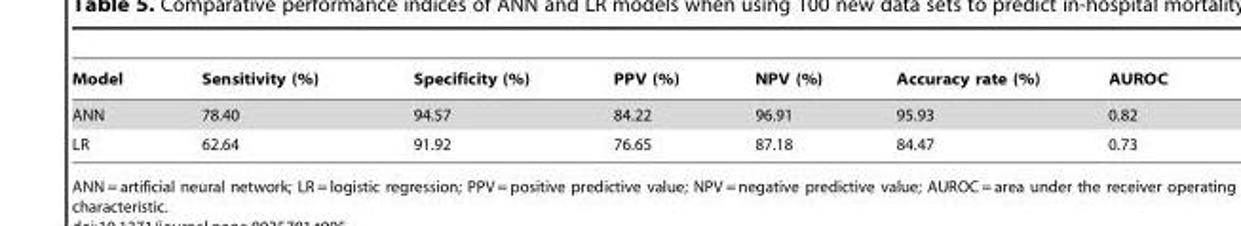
<table><thead><tr><td>Model</td><td>Sensitivity (%)</td><td>Specificity (%)</td><td>PPV (%)</td><td>NPV (%)</td><td>Accuracy rate (%)</td><td>AUROC</td></tr></thead><tbody><tr><td>ANN</td><td>78.40</td><td>94.57</td><td>84.22</td><td>96.91</td><td>95.93</td><td>0.82</td></tr><tr><td>LR</td><td>62.64</td><td>91.92</td><td>76.65</td><td>87.18</td><td>84.47</td><td>0.73</td></tr></tbody></table>